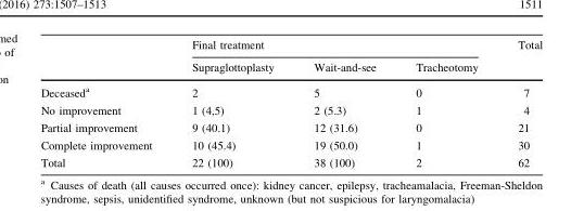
<table><thead><tr><td rowspan="2"></td><td colspan="3">Final treatment</td><td rowspan="2">Total</td></tr><tr><td>Supraglottoplasty</td><td>Wait-and-see</td><td>Tracheotomy</td></tr></thead><tbody><tr><td>Deceased<sup>a</sup></td><td>2</td><td>5</td><td>0</td><td>7</td></tr><tr><td>No improvement</td><td>1 (4,5)</td><td>2 (5.3)</td><td>1</td><td>4</td></tr><tr><td>Partial improvement</td><td>9 (40.1)</td><td>12 (31.6)</td><td>0</td><td>21</td></tr><tr><td>Complete improvement</td><td>10 (45.4)</td><td>19 (50.0)</td><td>1</td><td>30</td></tr><tr><td>Total</td><td>22 (100)</td><td>38 (100)</td><td>2</td><td>62</td></tr></tbody></table>